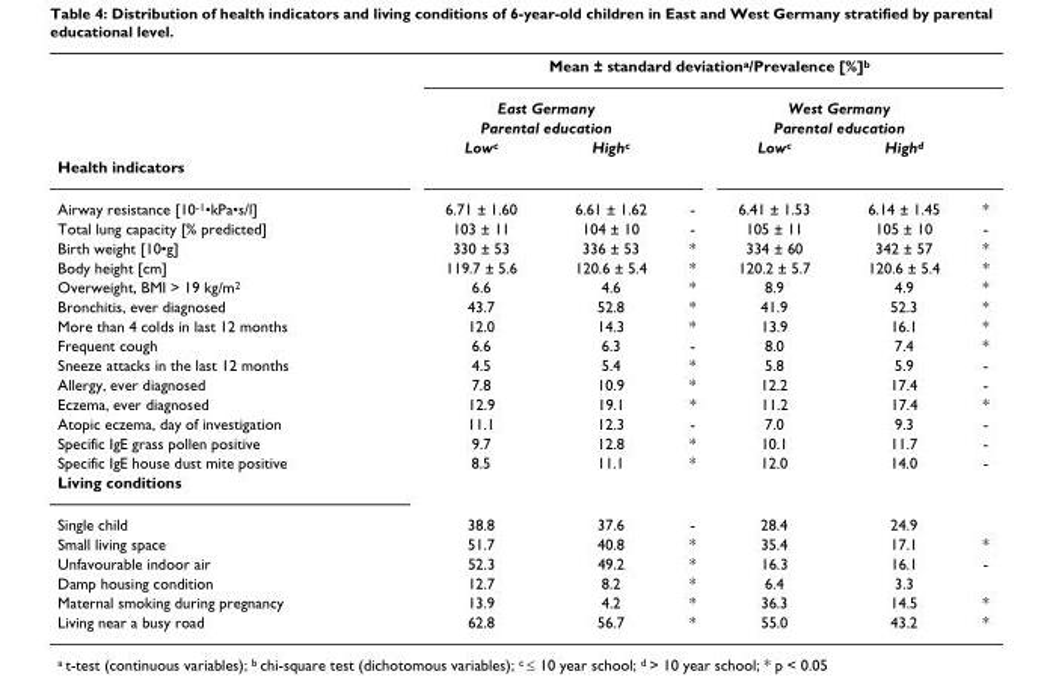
<table><thead><tr><td rowspan="4"></td><td colspan="6">Mean ± standard deviationa/Prevalence [%]b</td></tr><tr><td rowspan="2" colspan="2">East Germany Parental education</td><td rowspan="3"></td><td rowspan="2" colspan="2">West Germany Parental education</td><td rowspan="3"></td></tr><tr></tr><tr><td>Lowc</td><td>Highc</td><td>Lowc</td><td>Highd</td></tr></thead><tbody><tr><td colspan="7">Health indicators</td></tr><tr><td>Airway resistance [10-1•kPa•s/l]</td><td>6.71 ± 1.60</td><td>6.61 ± 1.62</td><td>-</td><td>6.41 ± 1.53</td><td>6.14 ± 1.45</td><td>*</td></tr><tr><td>Total lung capacity [% predicted]</td><td>103 ± 11</td><td>104 ± 10</td><td>-</td><td>105 ± 11</td><td>105 ± 10</td><td>-</td></tr><tr><td>Birth weight [10•g]</td><td>330 ± 53</td><td>336 ± 53</td><td>*</td><td>334 ± 60</td><td>342 ± 57</td><td>*</td></tr><tr><td>Body height [cm]</td><td>119.7 ± 5.6</td><td>120.6 ± 5.4</td><td>*</td><td>120.2 ± 5.7</td><td>120.6 ± 5.4</td><td>*</td></tr><tr><td>Overweight, BMI &gt; 19 kg/m2</td><td>6.6</td><td>4.6</td><td>*</td><td>8.9</td><td>4.9</td><td>*</td></tr><tr><td>Bronchitis, ever diagnosed</td><td>43.7</td><td>52.8</td><td>*</td><td>41.9</td><td>52.3</td><td>*</td></tr><tr><td>More than 4 colds in last 12 months</td><td>12.0</td><td>14.3</td><td>*</td><td>13.9</td><td>16.1</td><td>*</td></tr><tr><td>Frequent cough</td><td>6.6</td><td>6.3</td><td>-</td><td>8.0</td><td>7.4</td><td>*</td></tr><tr><td>Sneeze attacks in the last 12 months</td><td>4.5</td><td>5.4</td><td>*</td><td>5.8</td><td>5.9</td><td>-</td></tr><tr><td>Allergy, ever diagnosed</td><td>7.8</td><td>10.9</td><td>*</td><td>12.2</td><td>17.4</td><td>-</td></tr><tr><td>Eczema, ever diagnosed</td><td>12.9</td><td>19.1</td><td>*</td><td>11.2</td><td>17.4</td><td>*</td></tr><tr><td>Atopic eczema, day of investigation</td><td>11.1</td><td>12.3</td><td>-</td><td>7.0</td><td>9.3</td><td>-</td></tr><tr><td>Specific IgE grass pollen positive</td><td>9.7</td><td>12.8</td><td>*</td><td>10.1</td><td>11.7</td><td>-</td></tr><tr><td>Specific IgE house dust mite positive</td><td>8.5</td><td>11.1</td><td>*</td><td>12.0</td><td>14.0</td><td>-</td></tr><tr><td colspan="7">Living conditions</td></tr><tr><td>Single child</td><td>38.8</td><td>37.6</td><td>-</td><td>28.4</td><td>24.9</td><td></td></tr><tr><td>Small living space</td><td>51.7</td><td>40.8</td><td>*</td><td>35.4</td><td>17.1</td><td>*</td></tr><tr><td>Unfavourable indoor air</td><td>52.3</td><td>49.2</td><td>*</td><td>16.3</td><td>16.1</td><td>-</td></tr><tr><td>Damp housing condition</td><td>12.7</td><td>8.2</td><td>*</td><td>6.4</td><td>3.3</td><td></td></tr><tr><td>Maternal smoking during pregnancy</td><td>13.9</td><td>4.2</td><td>*</td><td>36.3</td><td>14.5</td><td>*</td></tr><tr><td>Living near a busy road</td><td>62.8</td><td>56.7</td><td>*</td><td>55.0</td><td>43.2</td><td>*</td></tr></tbody></table>